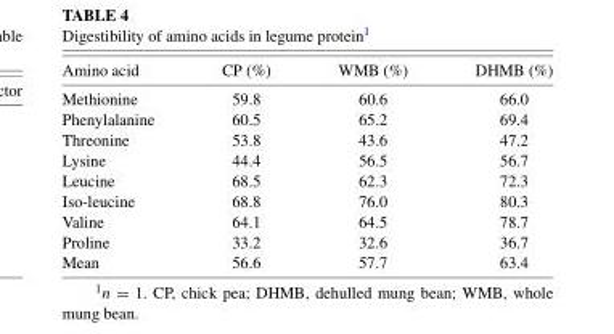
<table><thead><tr><td>Amino acid</td><td>CP (%)</td><td>WMB (%)</td><td>DHMB (%)</td></tr></thead><tbody><tr><td>Methionine</td><td>59.8</td><td>60.6</td><td>66.0</td></tr><tr><td>Phenylalanine</td><td>60.5</td><td>65.2</td><td>69.4</td></tr><tr><td>Threonine</td><td>53.8</td><td>43.6</td><td>47.2</td></tr><tr><td>Lysine</td><td>44.4</td><td>56.5</td><td>56.7</td></tr><tr><td>Leucine</td><td>68.5</td><td>62.3</td><td>72.3</td></tr><tr><td>Iso-leucine</td><td>68.8</td><td>76.0</td><td>80.3</td></tr><tr><td>Valine</td><td>64.1</td><td>64.5</td><td>78.7</td></tr><tr><td>Proline</td><td>33.2</td><td>32.6</td><td>36.7</td></tr><tr><td>Mean</td><td>56.6</td><td>57.7</td><td>63.4</td></tr></tbody></table>